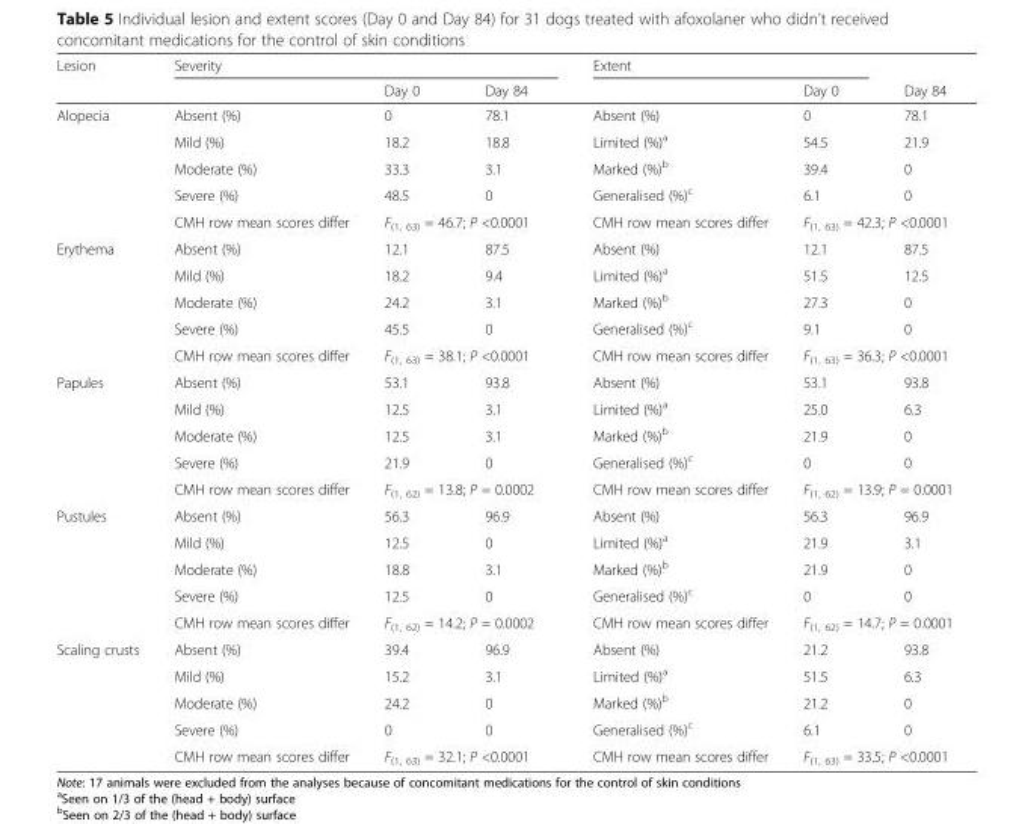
<table><thead><tr><td rowspan="2">Lesion</td><td colspan="3">Severity</td><td colspan="2">Extent</td><td rowspan="2">Day 84</td></tr><tr><td></td><td>Day 0</td><td>Day 84</td><td></td><td>Day 0</td></tr></thead><tbody><tr><td rowspan="5">Alopecia</td><td>Absent (%)</td><td>0</td><td>78.1</td><td>Absent (%)</td><td>0</td><td>78.1</td></tr><tr><td>Mild (%)</td><td>18.2</td><td>18.8</td><td>Limited (%)<sup>a</sup></td><td>54.5</td><td>21.9</td></tr><tr><td>Moderate (%)</td><td>33.3</td><td>3.1</td><td>Marked (%)<sup>b</sup></td><td>39.4</td><td>0</td></tr><tr><td>Severe (%)</td><td>48.5</td><td>0</td><td>Generalised (%)<sup>c</sup></td><td>6.1</td><td>0</td></tr><tr><td>CMH row mean scores differ</td><td colspan="2">F<sub>(1, 63)</sub> = 46.7; P &lt;0.0001</td><td>CMH row mean scores differ</td><td colspan="2">F<sub>(1, 63)</sub> = 42.3; P &lt;0.0001</td></tr><tr><td rowspan="5">Erythema</td><td>Absent (%)</td><td>12.1</td><td>87.5</td><td>Absent (%)</td><td>12.1</td><td>87.5</td></tr><tr><td>Mild (%)</td><td>18.2</td><td>9.4</td><td>Limited (%)<sup>a</sup></td><td>51.5</td><td>12.5</td></tr><tr><td>Moderate (%)</td><td>24.2</td><td>3.1</td><td>Marked (%)<sup>b</sup></td><td>27.3</td><td>0</td></tr><tr><td>Severe (%)</td><td>45.5</td><td>0</td><td>Generalised (%)<sup>c</sup></td><td>9.1</td><td>0</td></tr><tr><td>CMH row mean scores differ</td><td colspan="2">F<sub>(1, 63)</sub> = 38.1; P &lt;0.0001</td><td>CMH row mean scores differ</td><td colspan="2">F<sub>(1, 63)</sub> = 36.3; P &lt;0.0001</td></tr><tr><td rowspan="5">Papules</td><td>Absent (%)</td><td>53.1</td><td>93.8</td><td>Absent (%)</td><td>53.1</td><td>93.8</td></tr><tr><td>Mild (%)</td><td>12.5</td><td>3.1</td><td>Limited (%)<sup>a</sup></td><td>25.0</td><td>6.3</td></tr><tr><td>Moderate (%)</td><td>12.5</td><td>3.1</td><td>Marked (%)<sup>b</sup></td><td>21.9</td><td>0</td></tr><tr><td>Severe (%)</td><td>21.9</td><td>0</td><td>Generalised (%)<sup>c</sup></td><td>0</td><td>0</td></tr><tr><td>CMH row mean scores differ</td><td colspan="2">F<sub>(1, 62)</sub> = 13.8; P = 0.0002</td><td>CMH row mean scores differ</td><td colspan="2">F<sub>(1, 62)</sub> = 13.9; P = 0.0001</td></tr><tr><td rowspan="5">Pustules</td><td>Absent (%)</td><td>56.3</td><td>96.9</td><td>Absent (%)</td><td>56.3</td><td>96.9</td></tr><tr><td>Mild (%)</td><td>12.5</td><td>0</td><td>Limited (%)<sup>a</sup></td><td>21.9</td><td>3.1</td></tr><tr><td>Moderate (%)</td><td>18.8</td><td>3.1</td><td>Marked (%)<sup>b</sup></td><td>21.9</td><td>0</td></tr><tr><td>Severe (%)</td><td>12.5</td><td>0</td><td>Generalised (%)<sup>c</sup></td><td>0</td><td>0</td></tr><tr><td>CMH row mean scores differ</td><td colspan="2">F<sub>(1, 62)</sub> = 14.2; P = 0.0002</td><td>CMH row mean scores differ</td><td colspan="2">F<sub>(1, 62)</sub> = 14.7; P = 0.0001</td></tr><tr><td rowspan="5">Scaling crusts</td><td>Absent (%)</td><td>39.4</td><td>96.9</td><td>Absent (%)</td><td>21.2</td><td>93.8</td></tr><tr><td>Mild (%)</td><td>15.2</td><td>3.1</td><td>Limited (%)<sup>a</sup></td><td>51.5</td><td>6.3</td></tr><tr><td>Moderate (%)</td><td>24.2</td><td>0</td><td>Marked (%)<sup>b</sup></td><td>21.2</td><td>0</td></tr><tr><td>Severe (%)</td><td>0</td><td>0</td><td>Generalised (%)<sup>c</sup></td><td>6.1</td><td>0</td></tr><tr><td>CMH row mean scores differ</td><td colspan="2">F<sub>(1, 63)</sub> = 32.1; P &lt;0.0001</td><td>CMH row mean scores differ</td><td colspan="2">F<sub>(1, 63)</sub> = 33.5; P &lt;0.0001</td></tr></tbody></table>